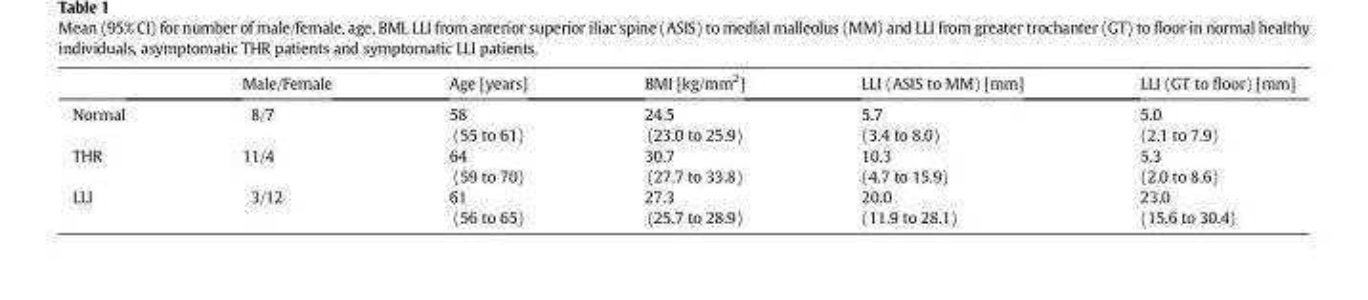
<table><thead><tr><td></td><td>Male/Female</td><td>Age [years]</td><td>BMI [kg/mm<sup>2</sup>]</td><td>LLI (ASIS to MM) [mm]</td><td>LLI (GT to floor) [mm]</td></tr></thead><tbody><tr><td>Normal</td><td>8/7</td><td>58 (55 to 61)</td><td>24.5 (23.0 to 25.9)</td><td>5.7 (3.4 to 8.0)</td><td>5.0 (2.1 to 7.9)</td></tr><tr><td>THR</td><td>11/4</td><td>64 (59 to 70)</td><td>30.7 (27.7 to 33.8)</td><td>10.3 (4.7 to 15.9)</td><td>5.3 (2.0 to 8.6)</td></tr><tr><td>LLI</td><td>3/12</td><td>61 (56 to 65)</td><td>27.3 (25.7 to 28.9)</td><td>20.0 (11.9 to 28.1)</td><td>23.0 (15.6 to 30.4)</td></tr></tbody></table>